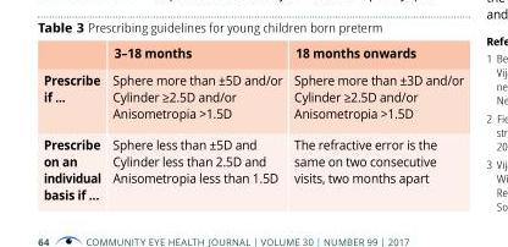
<table><thead><tr><td></td><td>3–18 months</td><td>18 months onwards</td></tr></thead><tbody><tr><td>Prescribe if ...</td><td>Sphere more than ±5D and/or Cylinder ≥2.5D and/or Anisometropia &gt;1.5D</td><td>Sphere more than ±3D and/or Cylinder ≥2.5D and/or Anisometropia &gt;1.5D</td></tr><tr><td>Prescribe on an individual basis if ...</td><td>Sphere less than ±5D and Cylinder less than 2.5D and Anisometropia less than 1.5D</td><td>The refractive error is the same on two consecutive visits, two months apart</td></tr></tbody></table>